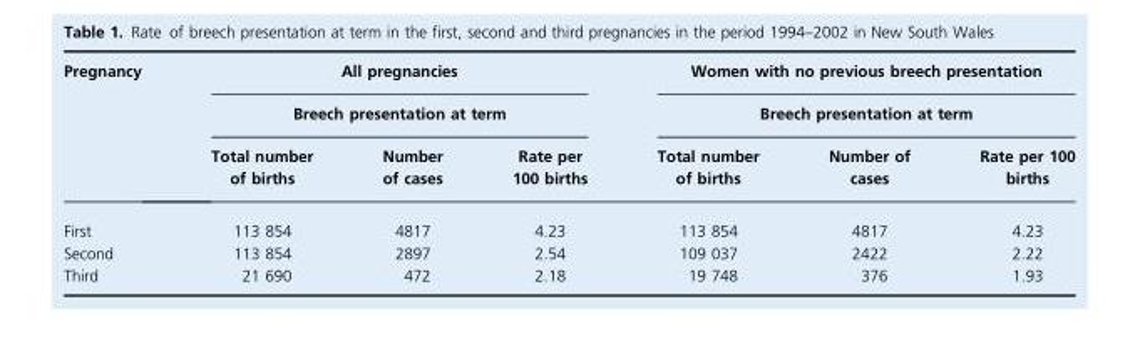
<table><thead><tr><td rowspan="3">Pregnancy</td><td rowspan="2" colspan="3">All pregnancies Breech presentation at term</td><td rowspan="2" colspan="3">Women with no previous breech presentation Breech presentation at term</td></tr><tr></tr><tr><td>Total number of births</td><td>Number of cases</td><td>Rate per 100 births</td><td>Total number of births</td><td>Number of cases</td><td>Rate per 100 births</td></tr></thead><tbody><tr><td>First</td><td>113 854</td><td>4817</td><td>4.23</td><td>113 854</td><td>4817</td><td>4.23</td></tr><tr><td>Second</td><td>113 854</td><td>2897</td><td>2.54</td><td>109 037</td><td>2422</td><td>2.22</td></tr><tr><td>Third</td><td>21 690</td><td>472</td><td>2.18</td><td>19 748</td><td>376</td><td>1.93</td></tr></tbody></table>